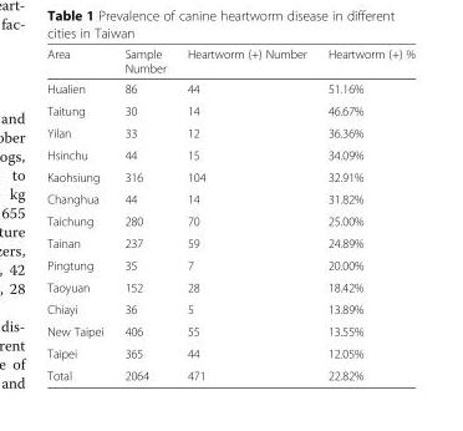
<table><thead><tr><td>Area</td><td>Sample Number</td><td>Heartworm (+) Number</td><td>Heartworm (+) %</td></tr></thead><tbody><tr><td>Hualien</td><td>86</td><td>44</td><td>51.16%</td></tr><tr><td>Taitung</td><td>30</td><td>14</td><td>46.67%</td></tr><tr><td>Yilan</td><td>33</td><td>12</td><td>36.36%</td></tr><tr><td>Hsinchu</td><td>44</td><td>15</td><td>34.09%</td></tr><tr><td>Kaohsiung</td><td>316</td><td>104</td><td>32.91%</td></tr><tr><td>Changhua</td><td>44</td><td>14</td><td>31.82%</td></tr><tr><td>Taichung</td><td>280</td><td>70</td><td>25.00%</td></tr><tr><td>Tainan</td><td>237</td><td>59</td><td>24.89%</td></tr><tr><td>Pingtung</td><td>35</td><td>7</td><td>20.00%</td></tr><tr><td>Taoyuan</td><td>152</td><td>28</td><td>18.42%</td></tr><tr><td>Chiayi</td><td>36</td><td>5</td><td>13.89%</td></tr><tr><td>New Taipei</td><td>406</td><td>55</td><td>13.55%</td></tr><tr><td>Taipei</td><td>365</td><td>44</td><td>12.05%</td></tr><tr><td>Total</td><td>2064</td><td>471</td><td>22.82%</td></tr></tbody></table>